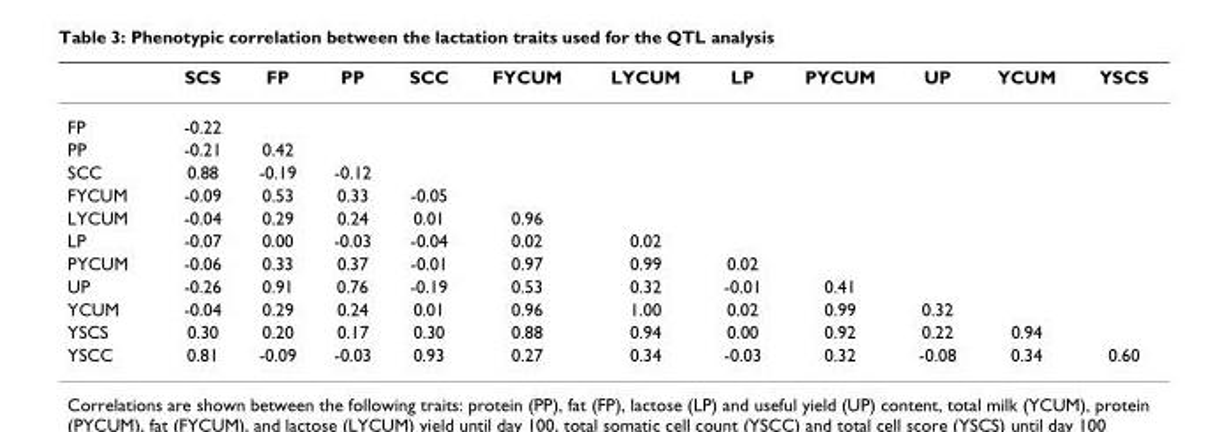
<table><thead><tr><td></td><td>SCS</td><td>FP</td><td>PP</td><td>SCC</td><td>FYCUM</td><td>LYCUM</td><td>LP</td><td>PYCUM</td><td>UP</td><td>YCUM</td><td>YSCS</td></tr></thead><tbody><tr><td>FP</td><td>-0.22</td><td></td><td></td><td></td><td></td><td></td><td></td><td></td><td></td><td></td><td></td></tr><tr><td>PP</td><td>-0.21</td><td>0.42</td><td></td><td></td><td></td><td></td><td></td><td></td><td></td><td></td><td></td></tr><tr><td>SCC</td><td>0.88</td><td>-0.19</td><td>-0.12</td><td></td><td></td><td></td><td></td><td></td><td></td><td></td><td></td></tr><tr><td>FYCUM</td><td>-0.09</td><td>0.53</td><td>0.33</td><td>-0.05</td><td></td><td></td><td></td><td></td><td></td><td></td><td></td></tr><tr><td>LYCUM</td><td>-0.04</td><td>0.29</td><td>0.24</td><td>0.01</td><td>0.96</td><td></td><td></td><td></td><td></td><td></td><td></td></tr><tr><td>LP</td><td>-0.07</td><td>0.00</td><td>-0.03</td><td>-0.04</td><td>0.02</td><td>0.02</td><td></td><td></td><td></td><td></td><td></td></tr><tr><td>PYCUM</td><td>-0.06</td><td>0.33</td><td>0.37</td><td>-0.01</td><td>0.97</td><td>0.99</td><td>0.02</td><td></td><td></td><td></td><td></td></tr><tr><td>UP</td><td>-0.26</td><td>0.91</td><td>0.76</td><td>-0.19</td><td>0.53</td><td>0.32</td><td>-0.01</td><td>0.41</td><td></td><td></td><td></td></tr><tr><td>YCUM</td><td>-0.04</td><td>0.29</td><td>0.24</td><td>0.01</td><td>0.96</td><td>1.00</td><td>0.02</td><td>0.99</td><td>0.32</td><td></td><td></td></tr><tr><td>YSCS</td><td>0.30</td><td>0.20</td><td>0.17</td><td>0.30</td><td>0.88</td><td>0.94</td><td>0.00</td><td>0.92</td><td>0.22</td><td>0.94</td><td></td></tr><tr><td>YSCC</td><td>0.81</td><td>-0.09</td><td>-0.03</td><td>0.93</td><td>0.27</td><td>0.34</td><td>-0.03</td><td>0.32</td><td>-0.08</td><td>0.34</td><td>0.60</td></tr></tbody></table>